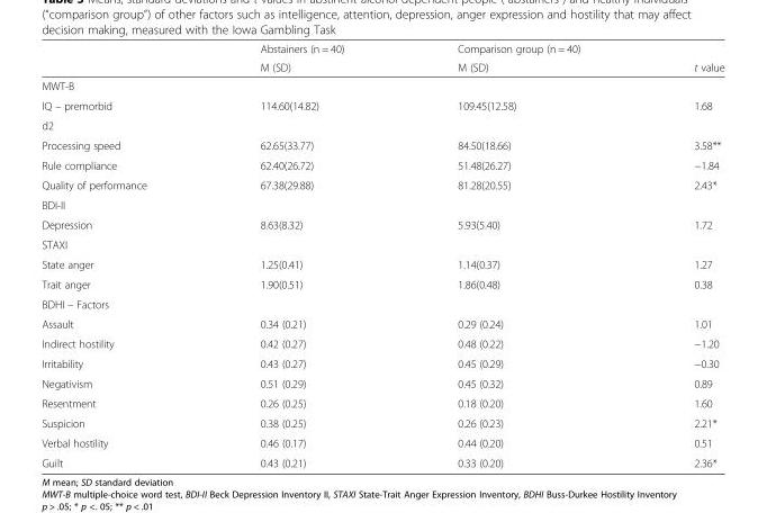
<table><thead><tr><td rowspan="2"></td><td rowspan="2">Abstainers (n = 40) M (SD)</td><td rowspan="2">Comparison group (n = 40) M (SD)</td><td rowspan="2">t value</td></tr><tr></tr></thead><tbody><tr><td colspan="4">MWT-B</td></tr><tr><td>IQ – premorbid</td><td>114.60(14.82)</td><td>109.45(12.58)</td><td>1.68</td></tr><tr><td colspan="4">d2</td></tr><tr><td>Processing speed</td><td>62.65(33.77)</td><td>84.50(18.66)</td><td>3.58**</td></tr><tr><td>Rule compliance</td><td>62.40(26.72)</td><td>51.48(26.27)</td><td>−1.84</td></tr><tr><td>Quality of performance</td><td>67.38(29.88)</td><td>81.28(20.55)</td><td>2.43*</td></tr><tr><td colspan="4">BDI-II</td></tr><tr><td>Depression</td><td>8.63(8.32)</td><td>5.93(5.40)</td><td>1.72</td></tr><tr><td colspan="4">STAXI</td></tr><tr><td>State anger</td><td>1.25(0.41)</td><td>1.14(0.37)</td><td>1.27</td></tr><tr><td>Trait anger</td><td>1.90(0.51)</td><td>1.86(0.48)</td><td>0.38</td></tr><tr><td colspan="4">BDHI – Factors</td></tr><tr><td>Assault</td><td>0.34 (0.21)</td><td>0.29 (0.24)</td><td>1.01</td></tr><tr><td>Indirect hostility</td><td>0.42 (0.27)</td><td>0.48 (0.22)</td><td>−1.20</td></tr><tr><td>Irritability</td><td>0.43 (0.27)</td><td>0.45 (0.29)</td><td>−0.30</td></tr><tr><td>Negativism</td><td>0.51 (0.29)</td><td>0.45 (0.32)</td><td>0.89</td></tr><tr><td>Resentment</td><td>0.26 (0.25)</td><td>0.18 (0.20)</td><td>1.60</td></tr><tr><td>Suspicion</td><td>0.38 (0.25)</td><td>0.26 (0.23)</td><td>2.21*</td></tr><tr><td>Verbal hostility</td><td>0.46 (0.17)</td><td>0.44 (0.20)</td><td>0.51</td></tr><tr><td>Guilt</td><td>0.43 (0.21)</td><td>0.33 (0.20)</td><td>2.36*</td></tr></tbody></table>